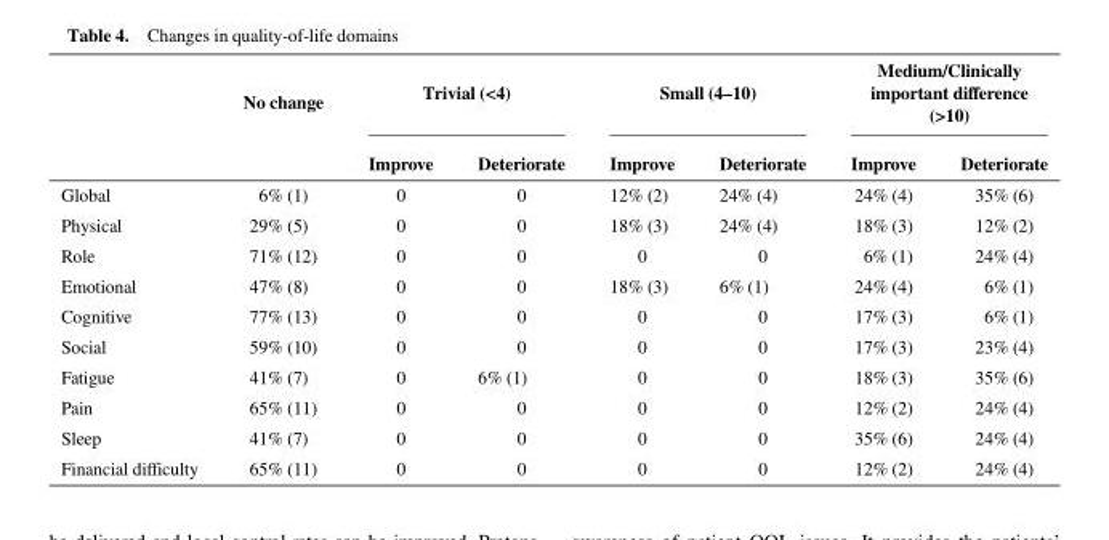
<table><thead><tr><td rowspan="2"></td><td rowspan="2">No change</td><td colspan="2">Trivial (&lt;4)</td><td colspan="2">Small (4–10)</td><td colspan="2">Medium/Clinically important difference (&gt;10)</td></tr><tr><td>Improve</td><td>Deteriorate</td><td>Improve</td><td>Deteriorate</td><td>Improve</td><td>Deteriorate</td></tr></thead><tbody><tr><td>Global</td><td>6% (1)</td><td>0</td><td>0</td><td>12% (2)</td><td>24% (4)</td><td>24% (4)</td><td>35% (6)</td></tr><tr><td>Physical</td><td>29% (5)</td><td>0</td><td>0</td><td>18% (3)</td><td>24% (4)</td><td>18% (3)</td><td>12% (2)</td></tr><tr><td>Role</td><td>71% (12)</td><td>0</td><td>0</td><td>0</td><td>0</td><td>6% (1)</td><td>24% (4)</td></tr><tr><td>Emotional</td><td>47% (8)</td><td>0</td><td>0</td><td>18% (3)</td><td>6% (1)</td><td>24% (4)</td><td>6% (1)</td></tr><tr><td>Cognitive</td><td>77% (13)</td><td>0</td><td>0</td><td>0</td><td>0</td><td>17% (3)</td><td>6% (1)</td></tr><tr><td>Social</td><td>59% (10)</td><td>0</td><td>0</td><td>0</td><td>0</td><td>17% (3)</td><td>23% (4)</td></tr><tr><td>Fatigue</td><td>41% (7)</td><td>0</td><td>6% (1)</td><td>0</td><td>0</td><td>18% (3)</td><td>35% (6)</td></tr><tr><td>Pain</td><td>65% (11)</td><td>0</td><td>0</td><td>0</td><td>0</td><td>12% (2)</td><td>24% (4)</td></tr><tr><td>Sleep</td><td>41% (7)</td><td>0</td><td>0</td><td>0</td><td>0</td><td>35% (6)</td><td>24% (4)</td></tr><tr><td>Financial difficulty</td><td>65% (11)</td><td>0</td><td>0</td><td>0</td><td>0</td><td>12% (2)</td><td>24% (4)</td></tr></tbody></table>